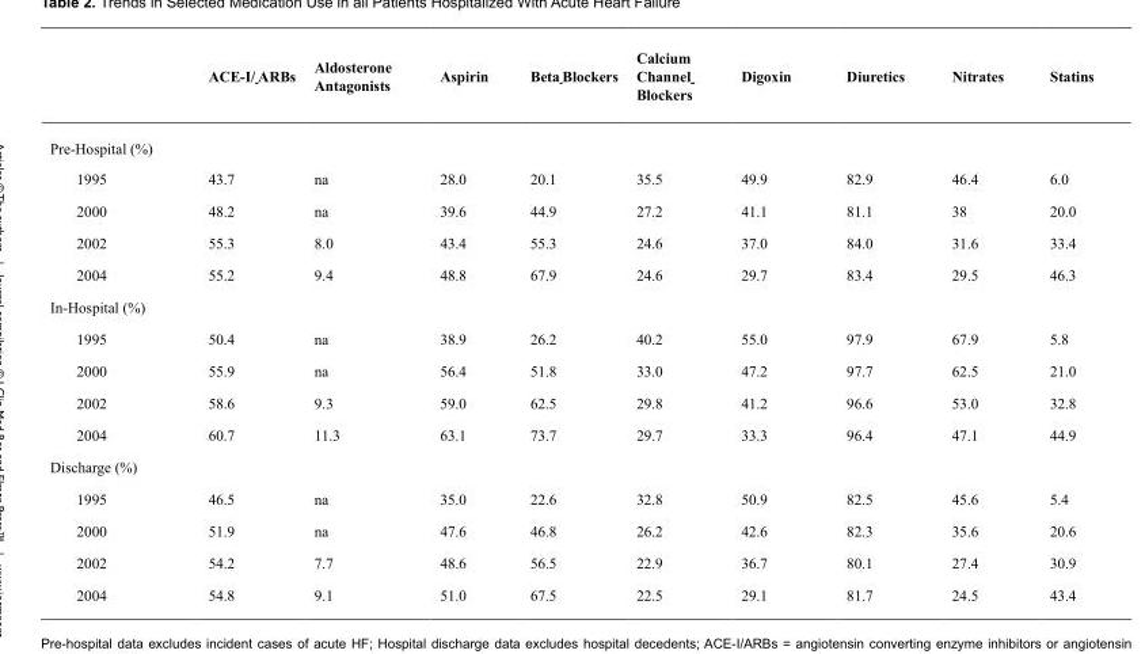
<table><thead><tr><td></td><td>ACE-I/ ARBs</td><td>Aldosterone Antagonists</td><td>Aspirin</td><td>Beta Blockers</td><td>Calcium Channel Blockers</td><td>Digoxin</td><td>Diuretics</td><td>Nitrates</td><td>Statins</td></tr></thead><tbody><tr><td colspan="10">Pre-Hospital (%)</td></tr><tr><td>1995</td><td>43.7</td><td>na</td><td>28.0</td><td>20.1</td><td>35.5</td><td>49.9</td><td>82.9</td><td>46.4</td><td>6.0</td></tr><tr><td>2000</td><td>48.2</td><td>na</td><td>39.6</td><td>44.9</td><td>27.2</td><td>41.1</td><td>81.1</td><td>38</td><td>20.0</td></tr><tr><td>2002</td><td>55.3</td><td>8.0</td><td>43.4</td><td>55.3</td><td>24.6</td><td>37.0</td><td>84.0</td><td>31.6</td><td>33.4</td></tr><tr><td>2004</td><td>55.2</td><td>9.4</td><td>48.8</td><td>67.9</td><td>24.6</td><td>29.7</td><td>83.4</td><td>29.5</td><td>46.3</td></tr><tr><td colspan="10">In-Hospital (%)</td></tr><tr><td>1995</td><td>50.4</td><td>na</td><td>38.9</td><td>26.2</td><td>40.2</td><td>55.0</td><td>97.9</td><td>67.9</td><td>5.8</td></tr><tr><td>2000</td><td>55.9</td><td>na</td><td>56.4</td><td>51.8</td><td>33.0</td><td>47.2</td><td>97.7</td><td>62.5</td><td>21.0</td></tr><tr><td>2002</td><td>58.6</td><td>9.3</td><td>59.0</td><td>62.5</td><td>29.8</td><td>41.2</td><td>96.6</td><td>53.0</td><td>32.8</td></tr><tr><td>2004</td><td>60.7</td><td>11.3</td><td>63.1</td><td>73.7</td><td>29.7</td><td>33.3</td><td>96.4</td><td>47.1</td><td>44.9</td></tr><tr><td colspan="10">Discharge (%)</td></tr><tr><td>1995</td><td>46.5</td><td>na</td><td>35.0</td><td>22.6</td><td>32.8</td><td>50.9</td><td>82.5</td><td>45.6</td><td>5.4</td></tr><tr><td>2000</td><td>51.9</td><td>na</td><td>47.6</td><td>46.8</td><td>26.2</td><td>42.6</td><td>82.3</td><td>35.6</td><td>20.6</td></tr><tr><td>2002</td><td>54.2</td><td>7.7</td><td>48.6</td><td>56.5</td><td>22.9</td><td>36.7</td><td>80.1</td><td>27.4</td><td>30.9</td></tr><tr><td>2004</td><td>54.8</td><td>9.1</td><td>51.0</td><td>67.5</td><td>22.5</td><td>29.1</td><td>81.7</td><td>24.5</td><td>43.4</td></tr></tbody></table>